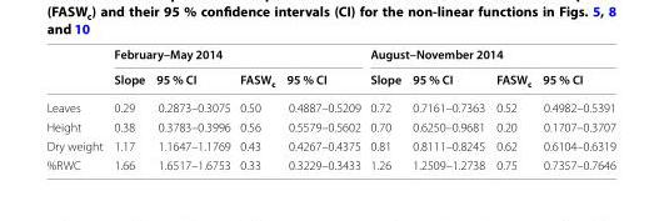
<table><thead><tr><td rowspan="2"></td><td colspan="4">February–May 2014</td><td colspan="4">August–November 2014</td></tr><tr><td>Slope</td><td>95 % CI</td><td>FASW<sub>c</sub></td><td>95 % CI</td><td>Slope</td><td>95 % CI</td><td>FASW<sub>c</sub></td><td>95 % CI</td></tr></thead><tbody><tr><td>Leaves</td><td>0.29</td><td>0.2873–0.3075</td><td>0.50</td><td>0.4887–0.5209</td><td>0.72</td><td>0.7161–0.7363</td><td>0.52</td><td>0.4982–0.5391</td></tr><tr><td>Height</td><td>0.38</td><td>0.3783–0.3996</td><td>0.56</td><td>0.5579–0.5602</td><td>0.70</td><td>0.6250–0.9681</td><td>0.20</td><td>0.1707–0.3707</td></tr><tr><td>Dry weight</td><td>1.17</td><td>1.1647–1.1769</td><td>0.43</td><td>0.4267–0.4375</td><td>0.81</td><td>0.8111–0.8245</td><td>0.62</td><td>0.6104–0.6319</td></tr><tr><td>%RWC</td><td>1.66</td><td>1.6517–1.6753</td><td>0.33</td><td>0.3229–0.3433</td><td>1.26</td><td>1.2509–1.2738</td><td>0.75</td><td>0.7357–0.7646</td></tr></tbody></table>